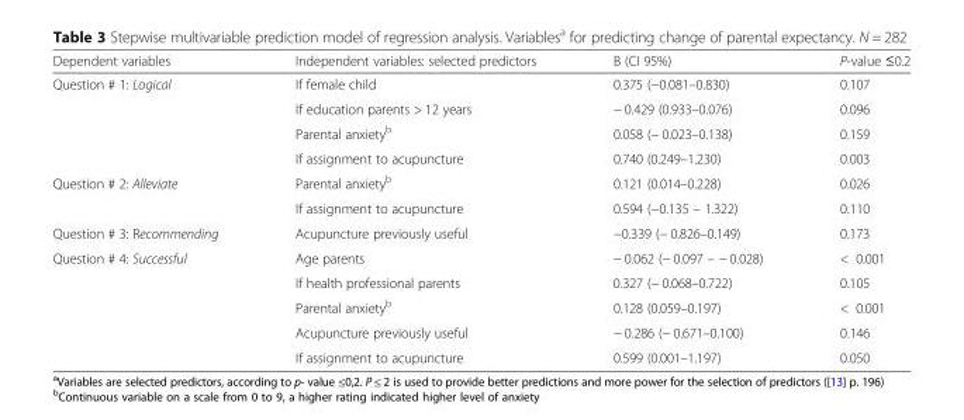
<table><thead><tr><td>Dependent variables</td><td>Independent variables: selected predictors</td><td>B (CI 95%)</td><td>P-value ≤0.2</td></tr></thead><tbody><tr><td rowspan="4">Question # 1: Logical</td><td>If female child</td><td>0.375 (−0.081–0.830)</td><td>0.107</td></tr><tr><td>If education parents &gt; 12 years</td><td>− 0.429 (0.933–0.076)</td><td>0.096</td></tr><tr><td>Parental anxiety<sup>b</sup></td><td>0.058 (− 0.023–0.138)</td><td>0.159</td></tr><tr><td>If assignment to acupuncture</td><td>0.740 (0.249–1.230)</td><td>0.003</td></tr><tr><td rowspan="2">Question # 2: Alleviate</td><td>Parental anxiety<sup>b</sup></td><td>0.121 (0.014–0.228)</td><td>0.026</td></tr><tr><td>If assignment to acupuncture</td><td>0.594 (−0.135 – 1.322)</td><td>0.110</td></tr><tr><td>Question # 3: Recommending</td><td>Acupuncture previously useful</td><td>−0.339 (− 0.826–0.149)</td><td>0.173</td></tr><tr><td rowspan="5">Question # 4: Successful</td><td>Age parents</td><td>− 0.062 (− 0.097 – − 0.028)</td><td>&lt; 0.001</td></tr><tr><td>If health professional parents</td><td>0.327 (− 0.068–0.722)</td><td>0.105</td></tr><tr><td>Parental anxiety<sup>b</sup></td><td>0.128 (0.059–0.197)</td><td>&lt; 0.001</td></tr><tr><td>Acupuncture previously useful</td><td>− 0.286 (− 0.671–0.100)</td><td>0.146</td></tr><tr><td>If assignment to acupuncture</td><td>0.599 (0.001–1.197)</td><td>0.050</td></tr></tbody></table>